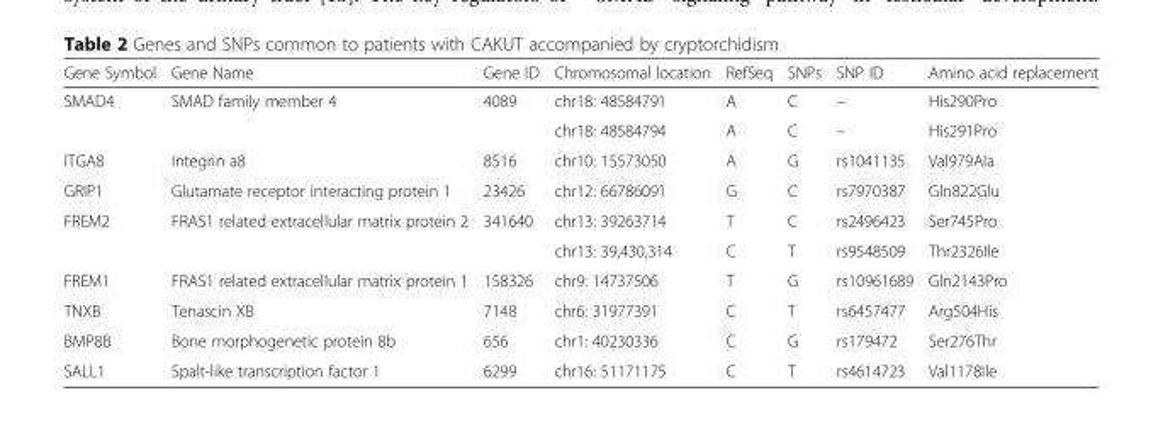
<table><thead><tr><td>Gene Symbol</td><td>Gene Name</td><td>Gene ID</td><td>Chromosomal location</td><td>RefSeq</td><td>SNPs</td><td>SNP ID</td><td>Amino acid replacement</td></tr></thead><tbody><tr><td rowspan="2">SMAD4</td><td>SMAD family member 4</td><td>4089</td><td>chr18: 48584791</td><td>A</td><td>C</td><td>–</td><td>His290Pro</td></tr><tr><td></td><td></td><td>chr18: 48584794</td><td>A</td><td>C</td><td>–</td><td>His291Pro</td></tr><tr><td>ITGA8</td><td>Integrin a8</td><td>8516</td><td>chr10: 15573050</td><td>A</td><td>G</td><td>rs1041135</td><td>Val979Ala</td></tr><tr><td>GRIP1</td><td>Glutamate receptor interacting protein 1</td><td>23426</td><td>chr12: 66786091</td><td>G</td><td>C</td><td>rs7970387</td><td>Gln822Glu</td></tr><tr><td rowspan="2">FREM2</td><td>FRAS1 related extracellular matrix protein 2</td><td>341640</td><td>chr13: 39263714</td><td>T</td><td>C</td><td>rs2496423</td><td>Ser745Pro</td></tr><tr><td></td><td></td><td>chr13: 39,430,314</td><td>C</td><td>T</td><td>rs9548509</td><td>Thr2326Ile</td></tr><tr><td>FREM1</td><td>FRAS1 related extracellular matrix protein 1</td><td>158326</td><td>chr9: 14737506</td><td>T</td><td>G</td><td>rs10961689</td><td>Gln2143Pro</td></tr><tr><td>TNXB</td><td>Tenascin XB</td><td>7148</td><td>chr6: 31977391</td><td>C</td><td>T</td><td>rs6457477</td><td>Arg504His</td></tr><tr><td>BMP8B</td><td>Bone morphogenetic protein 8b</td><td>656</td><td>chr1: 40230336</td><td>C</td><td>G</td><td>rs179472</td><td>Ser276Thr</td></tr><tr><td>SALL1</td><td>Spalt-like transcription factor 1</td><td>6299</td><td>chr16: 51171175</td><td>C</td><td>T</td><td>rs4614723</td><td>Val1178Ile</td></tr></tbody></table>